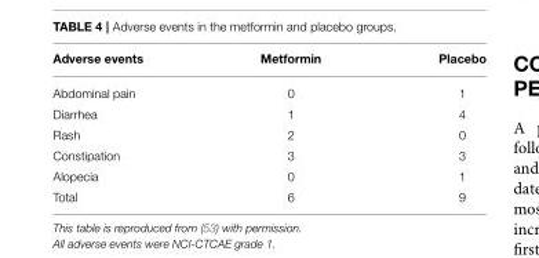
<table><thead><tr><td>Adverse events</td><td>Metformin</td><td>Placebo</td></tr></thead><tbody><tr><td>Abdominal pain</td><td>0</td><td>1</td></tr><tr><td>Diarrhea</td><td>1</td><td>4</td></tr><tr><td>Rash</td><td>2</td><td>0</td></tr><tr><td>Constipation</td><td>3</td><td>3</td></tr><tr><td>Alopecia</td><td>0</td><td>1</td></tr><tr><td>Total</td><td>6</td><td>9</td></tr></tbody></table>